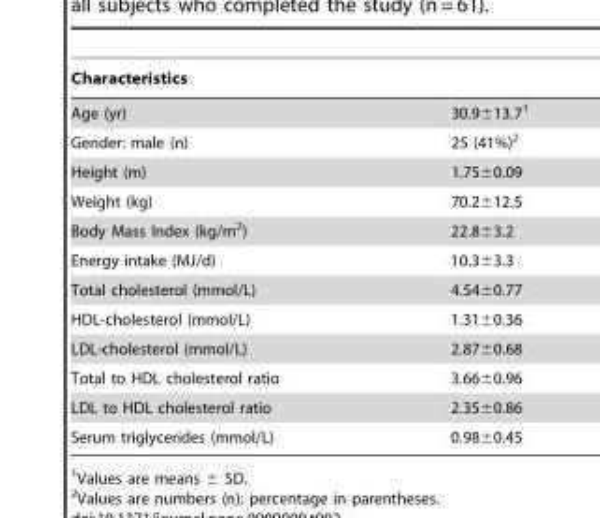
<table><thead><tr><td>Characteristics</td><td></td></tr></thead><tbody><tr><td>Age (yr)</td><td>30.9±13.7<sup>1</sup></td></tr><tr><td>Gender: male (n)</td><td>25 (41%)<sup>2</sup></td></tr><tr><td>Height (m)</td><td>1.75±0.09</td></tr><tr><td>Weight (kg)</td><td>70.2±12.5</td></tr><tr><td>Body Mass Index (kg/m<sup>2</sup>)</td><td>22.8±3.2</td></tr><tr><td>Energy intake (MJ/d)</td><td>10.3±3.3</td></tr><tr><td>Total cholesterol (mmol/L)</td><td>4.54±0.77</td></tr><tr><td>HDL-cholesterol (mmol/L)</td><td>1.31±0.36</td></tr><tr><td>LDL-cholesterol (mmol/L)</td><td>2.87±0.68</td></tr><tr><td>Total to HDL cholesterol ratio</td><td>3.66±0.96</td></tr><tr><td>LDL to HDL cholesterol ratio</td><td>2.35±0.86</td></tr><tr><td>Serum triglycerides (mmol/L)</td><td>0.98±0.45</td></tr></tbody></table>